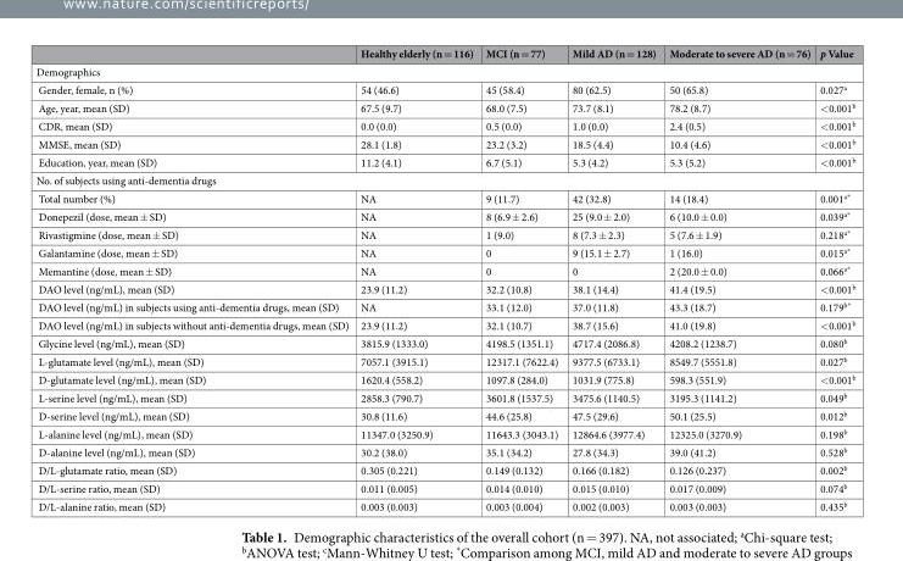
<table><thead><tr><td></td><td>Healthy elderly (n = 116)</td><td>MCI (n = 77)</td><td>Mild AD (n = 128)</td><td>Moderate to severe AD (n = 76)</td><td>p Value</td></tr></thead><tbody><tr><td colspan="6">Demographics</td></tr><tr><td>Gender, female, n (%)</td><td>54 (46.6)</td><td>45 (58.4)</td><td>80 (62.5)</td><td>50 (65.8)</td><td>0.027<sup>a</sup></td></tr><tr><td>Age, year, mean (SD)</td><td>67.5 (9.7)</td><td>68.0 (7.5)</td><td>73.7 (8.1)</td><td>78.2 (8.7)</td><td>&lt;0.001<sup>b</sup></td></tr><tr><td>CDR, mean (SD)</td><td>0.0 (0.0)</td><td>0.5 (0.0)</td><td>1.0 (0.0)</td><td>2.4 (0.5)</td><td>&lt;0.001<sup>b</sup></td></tr><tr><td>MMSE, mean (SD)</td><td>28.1 (1.8)</td><td>23.2 (3.2)</td><td>18.5 (4.4)</td><td>10.4 (4.6)</td><td>&lt;0.001<sup>b</sup></td></tr><tr><td>Education, year, mean (SD)</td><td>11.2 (4.1)</td><td>6.7 (5.1)</td><td>5.3 (4.2)</td><td>5.3 (5.2)</td><td>&lt;0.001<sup>b</sup></td></tr><tr><td colspan="6">No. of subjects using anti-dementia drugs</td></tr><tr><td>Total number (%)</td><td>NA</td><td>9 (11.7)</td><td>42 (32.8)</td><td>14 (18.4)</td><td>0.001<sup>a*</sup></td></tr><tr><td>Donepezil (dose, mean ± SD)</td><td>NA</td><td>8 (6.9 ± 2.6)</td><td>25 (9.0 ± 2.0)</td><td>6 (10.0 ± 0.0)</td><td>0.039<sup>a*</sup></td></tr><tr><td>Rivastigmine (dose, mean ± SD)</td><td>NA</td><td>1 (9.0)</td><td>8 (7.3 ± 2.3)</td><td>5 (7.6 ± 1.9)</td><td>0.218<sup>a*</sup></td></tr><tr><td>Galantamine (dose, mean ± SD)</td><td>NA</td><td>0</td><td>9 (15.1 ± 2.7)</td><td>1 (16.0)</td><td>0.015<sup>a*</sup></td></tr><tr><td>Memantine (dose, mean ± SD)</td><td>NA</td><td>0</td><td>0</td><td>2 (20.0 ± 0.0)</td><td>0.066<sup>a*</sup></td></tr><tr><td>DAO level (ng/mL), mean (SD)</td><td>23.9 (11.2)</td><td>32.2 (10.8)</td><td>38.1 (14.4)</td><td>41.4 (19.5)</td><td>&lt;0.001<sup>b</sup></td></tr><tr><td>DAO level (ng/mL) in subjects using anti-dementia drugs, mean (SD)</td><td>NA</td><td>33.1 (12.0)</td><td>37.0 (11.8)</td><td>43.3 (18.7)</td><td>0.179<sup>b*</sup></td></tr><tr><td>DAO level (ng/mL) in subjects without anti-dementia drugs, mean (SD)</td><td>23.9 (11.2)</td><td>32.1 (10.7)</td><td>38.7 (15.6)</td><td>41.0 (19.8)</td><td>&lt;0.001<sup>b</sup></td></tr><tr><td>Glycine level (ng/mL), mean (SD)</td><td>3815.9 (1333.0)</td><td>4198.5 (1351.1)</td><td>4717.4 (2086.8)</td><td>4208.2 (1238.7)</td><td>0.080<sup>b</sup></td></tr><tr><td>L-glutamate level (ng/mL), mean (SD)</td><td>7057.1 (3915.1)</td><td>12317.1 (7622.4)</td><td>9377.5 (6733.1)</td><td>8549.7 (5551.8)</td><td>0.027<sup>b</sup></td></tr><tr><td>D-glutamate level (ng/mL), mean (SD)</td><td>1620.4 (558.2)</td><td>1097.8 (284.0)</td><td>1031.9 (775.8)</td><td>598.3 (551.9)</td><td>&lt;0.001<sup>b</sup></td></tr><tr><td>L-serine level (ng/mL), mean (SD)</td><td>2858.3 (790.7)</td><td>3601.8 (1537.5)</td><td>3475.6 (1140.5)</td><td>3195.3 (1141.2)</td><td>0.049<sup>b</sup></td></tr><tr><td>D-serine level (ng/mL), mean (SD)</td><td>30.8 (11.6)</td><td>44.6 (25.8)</td><td>47.5 (29.6)</td><td>50.1 (25.5)</td><td>0.012<sup>b</sup></td></tr><tr><td>L-alanine level (ng/mL), mean (SD)</td><td>11347.0 (3250.9)</td><td>11643.3 (3043.1)</td><td>12864.6 (3977.4)</td><td>12325.0 (3270.9)</td><td>0.198<sup>b</sup></td></tr><tr><td>D-alanine level (ng/mL), mean (SD)</td><td>30.2 (38.0)</td><td>35.1 (34.2)</td><td>27.8 (34.3)</td><td>39.0 (41.2)</td><td>0.528<sup>b</sup></td></tr><tr><td>D/L-glutamate ratio, mean (SD)</td><td>0.305 (0.221)</td><td>0.149 (0.132)</td><td>0.166 (0.182)</td><td>0.126 (0.237)</td><td>0.002<sup>b</sup></td></tr><tr><td>D/L-serine ratio, mean (SD)</td><td>0.011 (0.005)</td><td>0.014 (0.010)</td><td>0.015 (0.010)</td><td>0.017 (0.009)</td><td>0.074<sup>b</sup></td></tr><tr><td>D/L-alanine ratio, mean (SD)</td><td>0.003 (0.003)</td><td>0.003 (0.004)</td><td>0.002 (0.003)</td><td>0.003 (0.003)</td><td>0.435<sup>b</sup></td></tr></tbody></table>